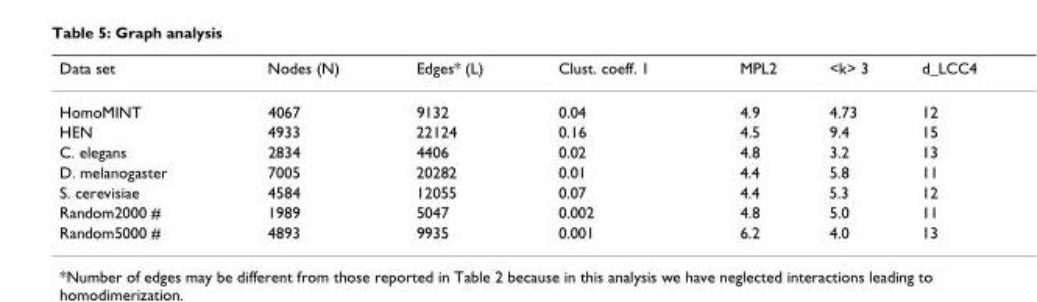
<table><thead><tr><td>Data set</td><td>Nodes (N)</td><td>Edges* (L)</td><td>Clust. coeff. 1</td><td>MPL2</td><td>&lt;k&gt; 3</td><td>d_LCC4</td></tr></thead><tbody><tr><td>HomoMINT</td><td>4067</td><td>9132</td><td>0.04</td><td>4.9</td><td>4.73</td><td>12</td></tr><tr><td>HEN</td><td>4933</td><td>22124</td><td>0.16</td><td>4.5</td><td>9.4</td><td>15</td></tr><tr><td>C. elegans</td><td>2834</td><td>4406</td><td>0.02</td><td>4.8</td><td>3.2</td><td>13</td></tr><tr><td>D. melanogaster</td><td>7005</td><td>20282</td><td>0.01</td><td>4.4</td><td>5.8</td><td>11</td></tr><tr><td>S. cerevisiae</td><td>4584</td><td>12055</td><td>0.07</td><td>4.4</td><td>5.3</td><td>12</td></tr><tr><td>Random2000 #</td><td>1989</td><td>5047</td><td>0.002</td><td>4.8</td><td>5.0</td><td>11</td></tr><tr><td>Random5000 #</td><td>4893</td><td>9935</td><td>0.001</td><td>6.2</td><td>4.0</td><td>13</td></tr></tbody></table>